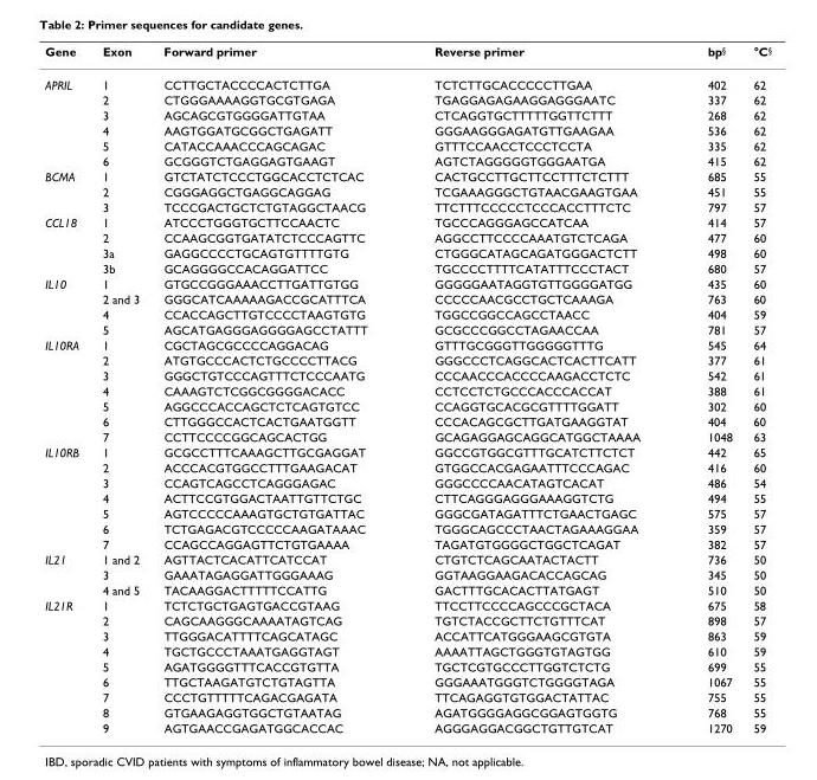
<table><thead><tr><td>Gene</td><td>Exon</td><td>Forward primer</td><td>Reverse primer</td><td>bp<sup>§</sup></td><td>°C<sup>§</sup></td></tr></thead><tbody><tr><td rowspan="6">APRIL</td><td>1</td><td>CCTTGCTACCCCACTCTTGA</td><td>TCTCTTGCACCCCCTTGAA</td><td>402</td><td>62</td></tr><tr><td>2</td><td>CTGGGAAAAGGTGCGTGAGA</td><td>TGAGGAGAGAAGGAGGGAATC</td><td>337</td><td>62</td></tr><tr><td>3</td><td>AGCAGCGTGGGGATTGTAA</td><td>CTCAGGTGCTTTTTGGTTCTTT</td><td>268</td><td>62</td></tr><tr><td>4</td><td>AAGTGGATGCGGCTGAGATT</td><td>GGGAAGGGAGATGTTGAAGAA</td><td>536</td><td>62</td></tr><tr><td>5</td><td>CATACCAAACCCAGCAGAC</td><td>GTTTCCAACCTCCCTCCTA</td><td>335</td><td>62</td></tr><tr><td>6</td><td>GCGGGTCTGAGGAGTGAAGT</td><td>AGTCTAGGGGGTGGGAATGA</td><td>415</td><td>62</td></tr><tr><td rowspan="3">BCMA</td><td>1</td><td>GTCTATCTCCCTGGCACCTCTCAC</td><td>CACTGCCTTGCTTCCTTTCTCTTT</td><td>685</td><td>55</td></tr><tr><td>2</td><td>CGGGAGGCTGAGGCAGGAG</td><td>TCGAAAGGGCTGTAACGAAGTGAA</td><td>451</td><td>55</td></tr><tr><td>3</td><td>TCCCGACTGCTCTGTAGGCTAACG</td><td>TTCTTTCCCCCTCCCACCTTTCTC</td><td>797</td><td>57</td></tr><tr><td rowspan="4">CCL18</td><td>1</td><td>ATCCCTGGGTGCTTCCAACTC</td><td>TGCCCAGGGAGCCATCAA</td><td>414</td><td>57</td></tr><tr><td>2</td><td>CCAAGCGGTGATATCTCCCAGTTC</td><td>AGGCCTTCCCCAAATGTCTCAGA</td><td>477</td><td>60</td></tr><tr><td>3a</td><td>GAGGCCCCTGCAGTGTTTTGTG</td><td>CTGGGCATAGCAGATGGGACTCTT</td><td>498</td><td>60</td></tr><tr><td>3b</td><td>GCAGGGGCCACAGGATTCC</td><td>TGCCCCTTTTCATATTTCCCTACT</td><td>680</td><td>57</td></tr><tr><td rowspan="4">IL10</td><td>1</td><td>GTGCCGGGAAACCTTGATTGTGG</td><td>GGGGGAATAGGTGTTGGGGATGG</td><td>435</td><td>60</td></tr><tr><td>2 and 3</td><td>GGGCATCAAAAAGACCGCATTTCA</td><td>CCCCCAACGCCTGCTCAAAGA</td><td>763</td><td>60</td></tr><tr><td>4</td><td>CCACCAGCTTGTCCCCTAAGTGTG</td><td>TGGCCGGCCAGCCTAACC</td><td>404</td><td>59</td></tr><tr><td>5</td><td>AGCATGAGGGAGGGGAGCCTATTT</td><td>GCGCCCGGCCTAGAACCAA</td><td>781</td><td>57</td></tr><tr><td rowspan="7">IL10RA</td><td>1</td><td>CGCTAGCGCCCCAGGACAG</td><td>GTTTGCGGGTTGGGGGTTTG</td><td>545</td><td>64</td></tr><tr><td>2</td><td>ATGTGCCCACTCTGCCCCTTACG</td><td>GGGCCCTCAGGCACTCACTTCATT</td><td>377</td><td>61</td></tr><tr><td>3</td><td>GGGCTGTCCCAGTTTCTCCCAATG</td><td>CCCAACCCACCCCAAGACCTCTC</td><td>542</td><td>61</td></tr><tr><td>4</td><td>CAAAGTCTCGGCGGGGACACC</td><td>CCTCCTCTGCCCACCCACCAT</td><td>388</td><td>61</td></tr><tr><td>5</td><td>AGGCCCACCAGCTCTCAGTGTCC</td><td>CCAGGTGCACGCGTTTTGGATT</td><td>302</td><td>60</td></tr><tr><td>6</td><td>CTTGGGCCACTCACTGAATGGTT</td><td>CCCACAGCGCTTGATGAAGGTAT</td><td>404</td><td>60</td></tr><tr><td>7</td><td>CCTTCCCCGGCAGCACTGG</td><td>GCAGAGGAGCAGGCATGGCTAAAA</td><td>1048</td><td>63</td></tr><tr><td rowspan="7">IL10RB</td><td>1</td><td>GCGCCTTTCAAAGCTTGCGAGGAT</td><td>GGCCGTGGCGTTTGCATCTTCTCT</td><td>442</td><td>65</td></tr><tr><td>2</td><td>ACCCACGTGGCCTTTGAAGACAT</td><td>GTGGCCACGAGAATTTCCCAGAC</td><td>416</td><td>60</td></tr><tr><td>3</td><td>CCAGTCAGCCTCAGGGAGAC</td><td>GGGCCCCAACATAGTCACAT</td><td>486</td><td>54</td></tr><tr><td>4</td><td>ACTTCCGTGGACTAATTGTTCTGC</td><td>CTTCAGGGAGGGAAAGGTCTG</td><td>494</td><td>55</td></tr><tr><td>5</td><td>AGTCCCCCAAAGTGCTGTGATTAC</td><td>GGGCGATAGATTTCTGAACTGAGC</td><td>575</td><td>57</td></tr><tr><td>6</td><td>TCTGAGACGTCCCCCAAGATAAAC</td><td>TGGGCAGCCCTAACTAGAAAGGAA</td><td>359</td><td>57</td></tr><tr><td>7</td><td>CCAGCCAGGAGTTCTGTGAAAA</td><td>TAGATGTGGGGCTGGCTCAGAT</td><td>382</td><td>57</td></tr><tr><td rowspan="3">IL21</td><td>1 and 2</td><td>AGTTACTCACATTCATCCAT</td><td>CTGTCTCAGCAATACTACTT</td><td>736</td><td>50</td></tr><tr><td>3</td><td>GAAATAGAGGATTGGGAAAG</td><td>GGTAAGGAAGACACCAGCAG</td><td>345</td><td>50</td></tr><tr><td>4 and 5</td><td>TACAAGGACTTTTTCCATTG</td><td>GACTTTGCACACTTATGAGT</td><td>510</td><td>50</td></tr><tr><td rowspan="9">IL21R</td><td>1</td><td>TCTCTGCTGAGTGACCGTAAG</td><td>TTCCTTCCCCAGCCCGCTACA</td><td>675</td><td>58</td></tr><tr><td>2</td><td>CAGCAAGGGCAAAATAGTCAG</td><td>TGTCTACCGCTTCTGTTTCAT</td><td>898</td><td>57</td></tr><tr><td>3</td><td>TTGGGACATTTTCAGCATAGC</td><td>ACCATTCATGGGAAGCGTGTA</td><td>863</td><td>59</td></tr><tr><td>4</td><td>TGCTGCCCTAAATGAGGTAGT</td><td>AAAATTAGCTGGGTGTAGTGG</td><td>610</td><td>59</td></tr><tr><td>5</td><td>AGATGGGGTTTCACCGTGTTA</td><td>TGCTCGTGCCCTTGGTCTCTG</td><td>699</td><td>55</td></tr><tr><td>6</td><td>TTGCTAAGATGTCTGTAGTTA</td><td>GGGAAATGGGTCTGGGGTAGA</td><td>1067</td><td>55</td></tr><tr><td>7</td><td>CCCTGTTTTTCAGACGAGATA</td><td>TTCAGAGGTGTGGACTATTAC</td><td>755</td><td>55</td></tr><tr><td>8</td><td>GTGAAGAGGTGGCTGTAATAG</td><td>AGATGGGGAGGCGGAGTGGTG</td><td>768</td><td>55</td></tr><tr><td>9</td><td>AGTGAACCGAGATGGCACCAC</td><td>AGGGAGGACGGCTGTTGTCAT</td><td>1270</td><td>59</td></tr></tbody></table>